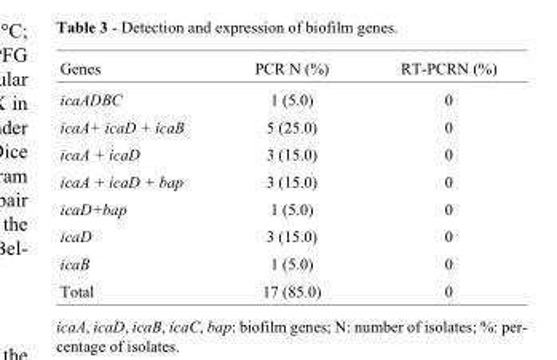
<table><thead><tr><td>Genes</td><td>PCR N (%)</td><td>RT-PCRN (%)</td></tr></thead><tbody><tr><td>icaADBC</td><td>1 (5.0)</td><td>0</td></tr><tr><td>icaA+ icaD + icaB</td><td>5 (25.0)</td><td>0</td></tr><tr><td>icaA + icaD</td><td>3 (15.0)</td><td>0</td></tr><tr><td>icaA + icaD + bap</td><td>3 (15.0)</td><td>0</td></tr><tr><td>icaD+bap</td><td>1 (5.0)</td><td>0</td></tr><tr><td>icaD</td><td>3 (15.0)</td><td>0</td></tr><tr><td>icaB</td><td>1 (5.0)</td><td>0</td></tr><tr><td>Total</td><td>17 (85.0)</td><td>0</td></tr></tbody></table>